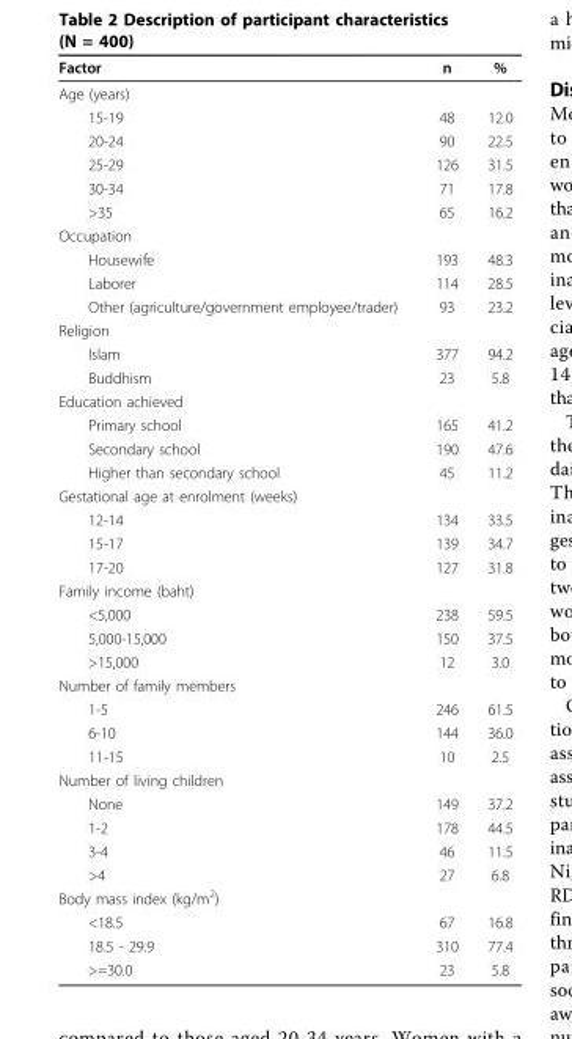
<table><thead><tr><td>Factor</td><td>n</td><td>%</td></tr></thead><tbody><tr><td colspan="3">Age (years)</td></tr><tr><td>15-19</td><td>48</td><td>12.0</td></tr><tr><td>20-24</td><td>90</td><td>22.5</td></tr><tr><td>25-29</td><td>126</td><td>31.5</td></tr><tr><td>30-34</td><td>71</td><td>17.8</td></tr><tr><td>&gt;35</td><td>65</td><td>16.2</td></tr><tr><td colspan="3">Occupation</td></tr><tr><td>Housewife</td><td>193</td><td>48.3</td></tr><tr><td>Laborer</td><td>114</td><td>28.5</td></tr><tr><td>Other (agriculture/government employee/trader)</td><td>93</td><td>23.2</td></tr><tr><td colspan="3">Religion</td></tr><tr><td>Islam</td><td>377</td><td>94.2</td></tr><tr><td>Buddhism</td><td>23</td><td>5.8</td></tr><tr><td colspan="3">Education achieved</td></tr><tr><td>Primary school</td><td>165</td><td>41.2</td></tr><tr><td>Secondary school</td><td>190</td><td>47.6</td></tr><tr><td>Higher than secondary school</td><td>45</td><td>11.2</td></tr><tr><td colspan="3">Gestational age at enrolment (weeks)</td></tr><tr><td>12-14</td><td>134</td><td>33.5</td></tr><tr><td>15-17</td><td>139</td><td>34.7</td></tr><tr><td>17-20</td><td>127</td><td>31.8</td></tr><tr><td colspan="3">Family income (baht)</td></tr><tr><td>&lt;5,000</td><td>238</td><td>59.5</td></tr><tr><td>5,000-15,000</td><td>150</td><td>37.5</td></tr><tr><td>&gt;15,000</td><td>12</td><td>3.0</td></tr><tr><td colspan="3">Number of family members</td></tr><tr><td>1-5</td><td>246</td><td>61.5</td></tr><tr><td>6-10</td><td>144</td><td>36.0</td></tr><tr><td>11-15</td><td>10</td><td>2.5</td></tr><tr><td colspan="3">Number of living children</td></tr><tr><td>None</td><td>149</td><td>37.2</td></tr><tr><td>1-2</td><td>178</td><td>44.5</td></tr><tr><td>3-4</td><td>46</td><td>11.5</td></tr><tr><td>&gt;4</td><td>27</td><td>6.8</td></tr><tr><td colspan="3">Body mass index (kg/m<sup>2</sup>)</td></tr><tr><td>&lt;18.5</td><td>67</td><td>16.8</td></tr><tr><td>18.5 - 29.9</td><td>310</td><td>77.4</td></tr><tr><td>&gt;=30.0</td><td>23</td><td>5.8</td></tr></tbody></table>